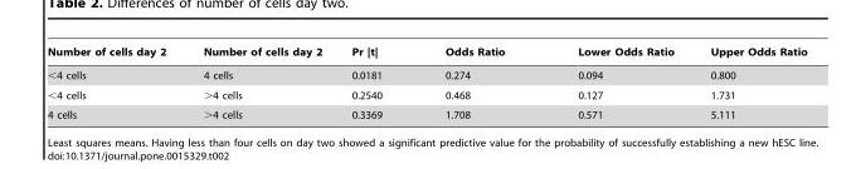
<table><thead><tr><td>Number of cells day 2</td><td>Number of cells day 2</td><td>Pr |t|</td><td>Odds Ratio</td><td>Lower Odds Ratio</td><td>Upper Odds Ratio</td></tr></thead><tbody><tr><td>&lt;4 cells</td><td>4 cells</td><td>0.0181</td><td>0.274</td><td>0.094</td><td>0.800</td></tr><tr><td>&lt;4 cells</td><td>&gt;4 cells</td><td>0.2540</td><td>0.468</td><td>0.127</td><td>1.731</td></tr><tr><td>4 cells</td><td>&gt;4 cells</td><td>0.3369</td><td>1.708</td><td>0.571</td><td>5.111</td></tr></tbody></table>